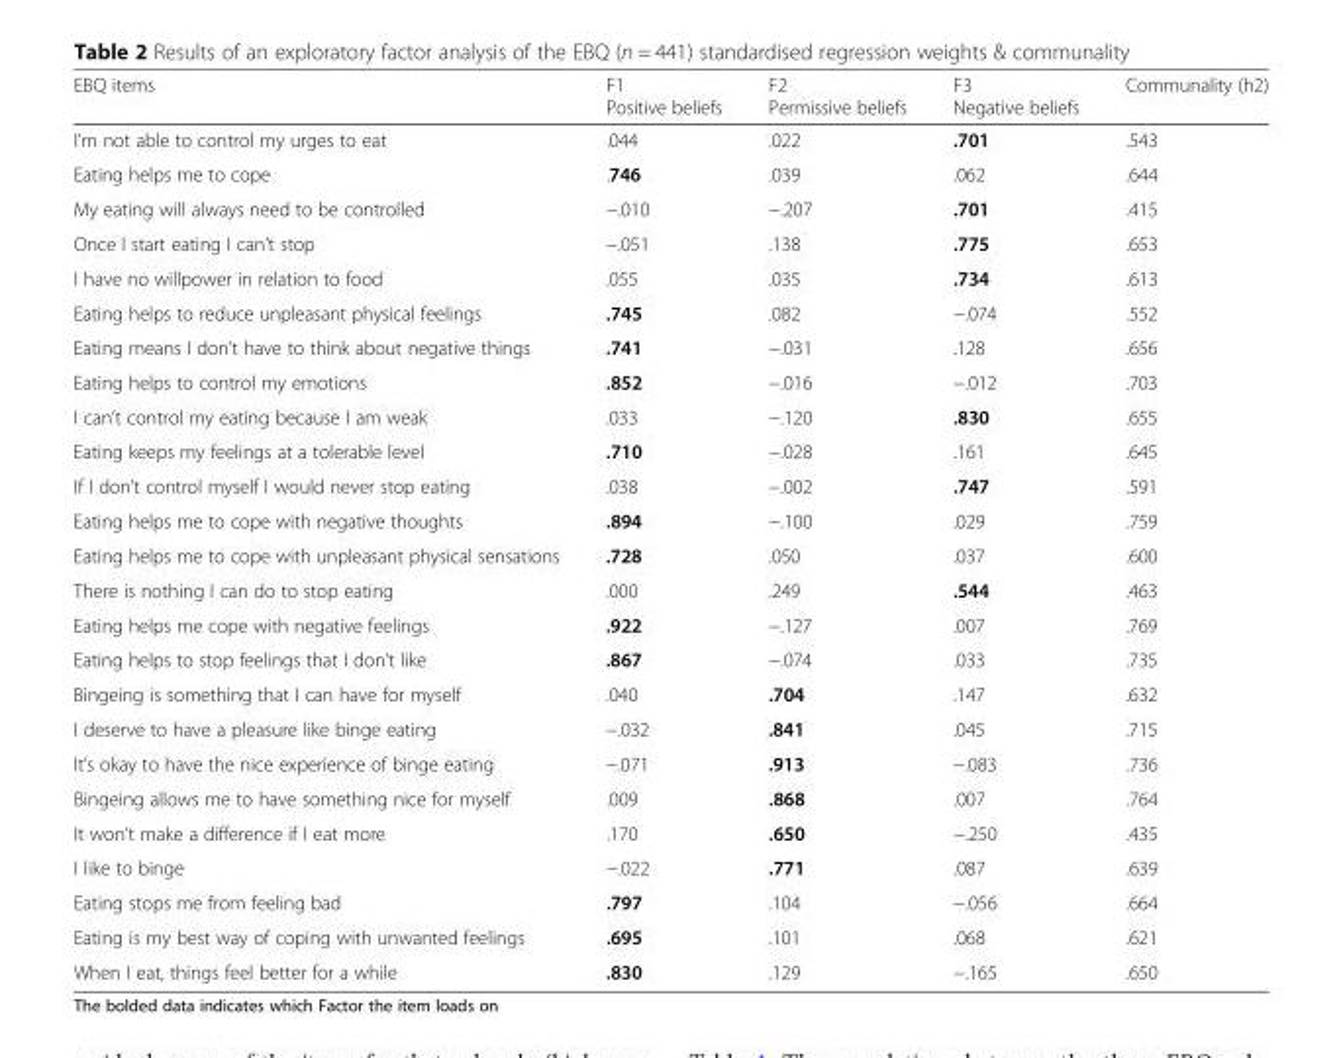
<table><thead><tr><td>EBQ items</td><td>F1 Positive beliefs</td><td>F2 Permissive beliefs</td><td>F3 Negative beliefs</td><td>Communality (h2)</td></tr></thead><tbody><tr><td>I’m not able to control my urges to eat</td><td>.044</td><td>.022</td><td>.701</td><td>.543</td></tr><tr><td>Eating helps me to cope</td><td>.746</td><td>.039</td><td>.062</td><td>.644</td></tr><tr><td>My eating will always need to be controlled</td><td>−.010</td><td>−.207</td><td>.701</td><td>.415</td></tr><tr><td>Once I start eating I can’t stop</td><td>−.051</td><td>.138</td><td>.775</td><td>.653</td></tr><tr><td>I have no willpower in relation to food</td><td>.055</td><td>.035</td><td>.734</td><td>.613</td></tr><tr><td>Eating helps to reduce unpleasant physical feelings</td><td>.745</td><td>.082</td><td>−.074</td><td>.552</td></tr><tr><td>Eating means I don’t have to think about negative things</td><td>.741</td><td>−.031</td><td>.128</td><td>.656</td></tr><tr><td>Eating helps to control my emotions</td><td>.852</td><td>−.016</td><td>−.012</td><td>.703</td></tr><tr><td>I can’t control my eating because I am weak</td><td>.033</td><td>−.120</td><td>.830</td><td>.655</td></tr><tr><td>Eating keeps my feelings at a tolerable level</td><td>.710</td><td>−.028</td><td>.161</td><td>.645</td></tr><tr><td>If I don’t control myself I would never stop eating</td><td>.038</td><td>−.002</td><td>.747</td><td>.591</td></tr><tr><td>Eating helps me to cope with negative thoughts</td><td>.894</td><td>−.100</td><td>.029</td><td>.759</td></tr><tr><td>Eating helps me to cope with unpleasant physical sensations</td><td>.728</td><td>.050</td><td>.037</td><td>.600</td></tr><tr><td>There is nothing I can do to stop eating</td><td>.000</td><td>.249</td><td>.544</td><td>.463</td></tr><tr><td>Eating helps me cope with negative feelings</td><td>.922</td><td>−.127</td><td>.007</td><td>.769</td></tr><tr><td>Eating helps to stop feelings that I don’t like</td><td>.867</td><td>−.074</td><td>.033</td><td>.735</td></tr><tr><td>Bingeing is something that I can have for myself</td><td>.040</td><td>.704</td><td>.147</td><td>.632</td></tr><tr><td>I deserve to have a pleasure like binge eating</td><td>−.032</td><td>.841</td><td>.045</td><td>.715</td></tr><tr><td>It’s okay to have the nice experience of binge eating</td><td>−.071</td><td>.913</td><td>−.083</td><td>.736</td></tr><tr><td>Bingeing allows me to have something nice for myself</td><td>.009</td><td>.868</td><td>.007</td><td>.764</td></tr><tr><td>It won’t make a difference if I eat more</td><td>.170</td><td>.650</td><td>−.250</td><td>.435</td></tr><tr><td>I like to binge</td><td>−.022</td><td>.771</td><td>.087</td><td>.639</td></tr><tr><td>Eating stops me from feeling bad</td><td>.797</td><td>.104</td><td>−.056</td><td>.664</td></tr><tr><td>Eating is my best way of coping with unwanted feelings</td><td>.695</td><td>.101</td><td>.068</td><td>.621</td></tr><tr><td>When I eat, things feel better for a while</td><td>.830</td><td>.129</td><td>−.165</td><td>.650</td></tr></tbody></table>